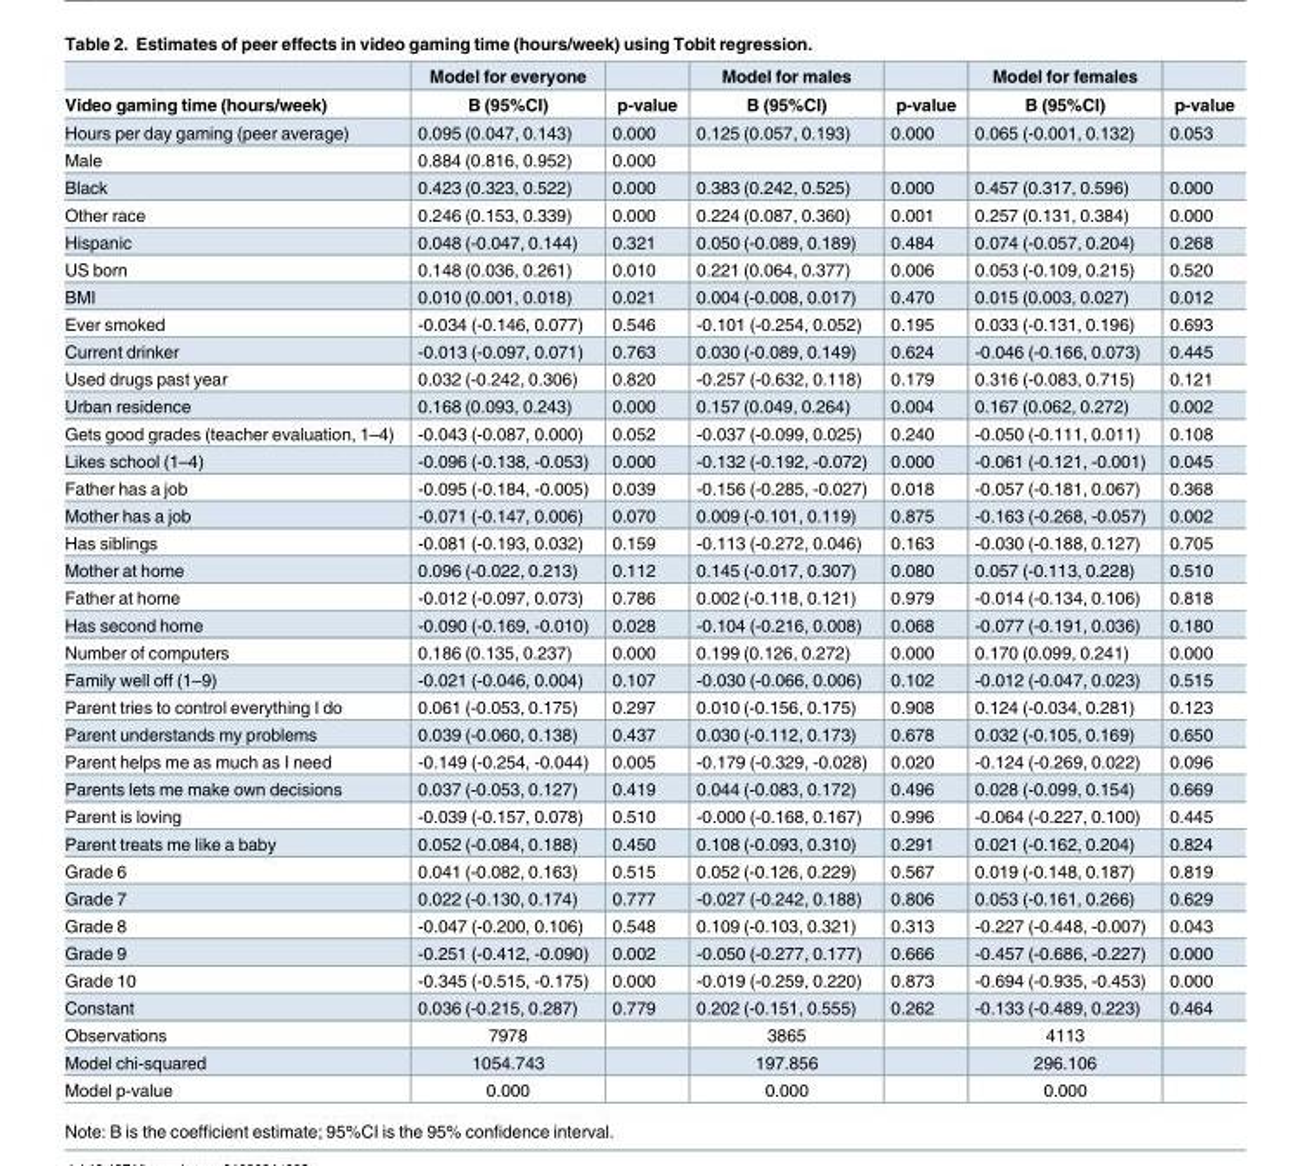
<table><thead><tr><td rowspan="2">Video gaming time (hours/week)</td><td rowspan="2">Model for everyone B (95%CI)</td><td rowspan="2">p-value</td><td rowspan="2">Model for males B (95%CI)</td><td rowspan="2">p-value</td><td rowspan="2">Model for females B (95%CI)</td><td rowspan="2">p-value</td></tr><tr></tr></thead><tbody><tr><td>Hours per day gaming (peer average)</td><td>0.095 (0.047, 0.143)</td><td>0.000</td><td>0.125 (0.057, 0.193)</td><td>0.000</td><td>0.065 (-0.001, 0.132)</td><td>0.053</td></tr><tr><td>Male</td><td>0.884 (0.816, 0.952)</td><td>0.000</td><td></td><td></td><td></td><td></td></tr><tr><td>Black</td><td>0.423 (0.323, 0.522)</td><td>0.000</td><td>0.383 (0.242, 0.525)</td><td>0.000</td><td>0.457 (0.317, 0.596)</td><td>0.000</td></tr><tr><td>Other race</td><td>0.246 (0.153, 0.339)</td><td>0.000</td><td>0.224 (0.087, 0.360)</td><td>0.001</td><td>0.257 (0.131, 0.384)</td><td>0.000</td></tr><tr><td>Hispanic</td><td>0.048 (-0.047, 0.144)</td><td>0.321</td><td>0.050 (-0.089, 0.189)</td><td>0.484</td><td>0.074 (-0.057, 0.204)</td><td>0.268</td></tr><tr><td>US born</td><td>0.148 (0.036, 0.261)</td><td>0.010</td><td>0.221 (0.064, 0.377)</td><td>0.006</td><td>0.053 (-0.109, 0.215)</td><td>0.520</td></tr><tr><td>BMI</td><td>0.010 (0.001, 0.018)</td><td>0.021</td><td>0.004 (-0.008, 0.017)</td><td>0.470</td><td>0.015 (0.003, 0.027)</td><td>0.012</td></tr><tr><td>Ever smoked</td><td>-0.034 (-0.146, 0.077)</td><td>0.546</td><td>-0.101 (-0.254, 0.052)</td><td>0.195</td><td>0.033 (-0.131, 0.196)</td><td>0.693</td></tr><tr><td>Current drinker</td><td>-0.013 (-0.097, 0.071)</td><td>0.763</td><td>0.030 (-0.089, 0.149)</td><td>0.624</td><td>-0.046 (-0.166, 0.073)</td><td>0.445</td></tr><tr><td>Used drugs past year</td><td>0.032 (-0.242, 0.306)</td><td>0.820</td><td>-0.257 (-0.632, 0.118)</td><td>0.179</td><td>0.316 (-0.083, 0.715)</td><td>0.121</td></tr><tr><td>Urban residence</td><td>0.168 (0.093, 0.243)</td><td>0.000</td><td>0.157 (0.049, 0.264)</td><td>0.004</td><td>0.167 (0.062, 0.272)</td><td>0.002</td></tr><tr><td>Gets good grades (teacher evaluation, 1–4)</td><td>-0.043 (-0.087, 0.000)</td><td>0.052</td><td>-0.037 (-0.099, 0.025)</td><td>0.240</td><td>-0.050 (-0.111, 0.011)</td><td>0.108</td></tr><tr><td>Likes school (1–4)</td><td>-0.096 (-0.138, -0.053)</td><td>0.000</td><td>-0.132 (-0.192, -0.072)</td><td>0.000</td><td>-0.061 (-0.121, -0.001)</td><td>0.045</td></tr><tr><td>Father has a job</td><td>-0.095 (-0.184, -0.005)</td><td>0.039</td><td>-0.156 (-0.285, -0.027)</td><td>0.018</td><td>-0.057 (-0.181, 0.067)</td><td>0.368</td></tr><tr><td>Mother has a job</td><td>-0.071 (-0.147, 0.006)</td><td>0.070</td><td>0.009 (-0.101, 0.119)</td><td>0.875</td><td>-0.163 (-0.268, -0.057)</td><td>0.002</td></tr><tr><td>Has siblings</td><td>-0.081 (-0.193, 0.032)</td><td>0.159</td><td>-0.113 (-0.272, 0.046)</td><td>0.163</td><td>-0.030 (-0.188, 0.127)</td><td>0.705</td></tr><tr><td>Mother at home</td><td>0.096 (-0.022, 0.213)</td><td>0.112</td><td>0.145 (-0.017, 0.307)</td><td>0.080</td><td>0.057 (-0.113, 0.228)</td><td>0.510</td></tr><tr><td>Father at home</td><td>-0.012 (-0.097, 0.073)</td><td>0.786</td><td>0.002 (-0.118, 0.121)</td><td>0.979</td><td>-0.014 (-0.134, 0.106)</td><td>0.818</td></tr><tr><td>Has second home</td><td>-0.090 (-0.169, -0.010)</td><td>0.028</td><td>-0.104 (-0.216, 0.008)</td><td>0.068</td><td>-0.077 (-0.191, 0.036)</td><td>0.180</td></tr><tr><td>Number of computers</td><td>0.186 (0.135, 0.237)</td><td>0.000</td><td>0.199 (0.126, 0.272)</td><td>0.000</td><td>0.170 (0.099, 0.241)</td><td>0.000</td></tr><tr><td>Family well off (1–9)</td><td>-0.021 (-0.046, 0.004)</td><td>0.107</td><td>-0.030 (-0.066, 0.006)</td><td>0.102</td><td>-0.012 (-0.047, 0.023)</td><td>0.515</td></tr><tr><td>Parent tries to control everything I do</td><td>0.061 (-0.053, 0.175)</td><td>0.297</td><td>0.010 (-0.156, 0.175)</td><td>0.908</td><td>0.124 (-0.034, 0.281)</td><td>0.123</td></tr><tr><td>Parent understands my problems</td><td>0.039 (-0.060, 0.138)</td><td>0.437</td><td>0.030 (-0.112, 0.173)</td><td>0.678</td><td>0.032 (-0.105, 0.169)</td><td>0.650</td></tr><tr><td>Parent helps me as much as I need</td><td>-0.149 (-0.254, -0.044)</td><td>0.005</td><td>-0.179 (-0.329, -0.028)</td><td>0.020</td><td>-0.124 (-0.269, 0.022)</td><td>0.096</td></tr><tr><td>Parents lets me make own decisions</td><td>0.037 (-0.053, 0.127)</td><td>0.419</td><td>0.044 (-0.083, 0.172)</td><td>0.496</td><td>0.028 (-0.099, 0.154)</td><td>0.669</td></tr><tr><td>Parent is loving</td><td>-0.039 (-0.157, 0.078)</td><td>0.510</td><td>-0.000 (-0.168, 0.167)</td><td>0.996</td><td>-0.064 (-0.227, 0.100)</td><td>0.445</td></tr><tr><td>Parent treats me like a baby</td><td>0.052 (-0.084, 0.188)</td><td>0.450</td><td>0.108 (-0.093, 0.310)</td><td>0.291</td><td>0.021 (-0.162, 0.204)</td><td>0.824</td></tr><tr><td>Grade 6</td><td>0.041 (-0.082, 0.163)</td><td>0.515</td><td>0.052 (-0.126, 0.229)</td><td>0.567</td><td>0.019 (-0.148, 0.187)</td><td>0.819</td></tr><tr><td>Grade 7</td><td>0.022 (-0.130, 0.174)</td><td>0.777</td><td>-0.027 (-0.242, 0.188)</td><td>0.806</td><td>0.053 (-0.161, 0.266)</td><td>0.629</td></tr><tr><td>Grade 8</td><td>-0.047 (-0.200, 0.106)</td><td>0.548</td><td>0.109 (-0.103, 0.321)</td><td>0.313</td><td>-0.227 (-0.448, -0.007)</td><td>0.043</td></tr><tr><td>Grade 9</td><td>-0.251 (-0.412, -0.090)</td><td>0.002</td><td>-0.050 (-0.277, 0.177)</td><td>0.666</td><td>-0.457 (-0.686, -0.227)</td><td>0.000</td></tr><tr><td>Grade 10</td><td>-0.345 (-0.515, -0.175)</td><td>0.000</td><td>-0.019 (-0.259, 0.220)</td><td>0.873</td><td>-0.694 (-0.935, -0.453)</td><td>0.000</td></tr><tr><td>Constant</td><td>0.036 (-0.215, 0.287)</td><td>0.779</td><td>0.202 (-0.151, 0.555)</td><td>0.262</td><td>-0.133 (-0.489, 0.223)</td><td>0.464</td></tr><tr><td>Observations</td><td>7978</td><td></td><td>3865</td><td></td><td>4113</td><td></td></tr><tr><td>Model chi-squared</td><td>1054.743</td><td></td><td>197.856</td><td></td><td>296.106</td><td></td></tr><tr><td>Model p-value</td><td>0.000</td><td></td><td>0.000</td><td></td><td>0.000</td><td></td></tr></tbody></table>